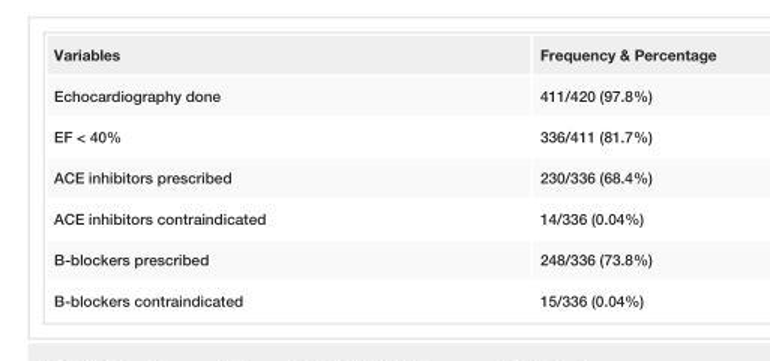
<table><tbody><tr><td>Variables</td><td>Frequency &amp; Percentage</td></tr><tr><td>Echocardiography done</td><td>411/420 (97.8%)</td></tr><tr><td>EF &lt; 40%</td><td>336/411 (81.7%)</td></tr><tr><td>ACE inhibitors prescribed</td><td>230/336 (68.4%)</td></tr><tr><td>ACE inhibitors contraindicated</td><td>14/336 (0.04%)</td></tr><tr><td>B-blockers prescribed</td><td>248/336 (73.8%)</td></tr><tr><td>B-blockers contraindicated</td><td>15/336 (0.04%)</td></tr></tbody></table>